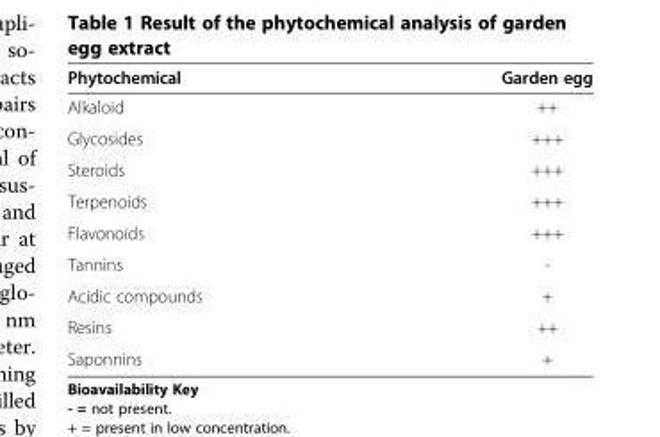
<table><thead><tr><td>Phytochemical</td><td>Garden egg</td></tr></thead><tbody><tr><td>Alkaloid</td><td>++</td></tr><tr><td>Glycosides</td><td>+++</td></tr><tr><td>Steroids</td><td>+++</td></tr><tr><td>Terpenoids</td><td>+++</td></tr><tr><td>Flavonoids</td><td>+++</td></tr><tr><td>Tannins</td><td>-</td></tr><tr><td>Acidic compounds</td><td>+</td></tr><tr><td>Resins</td><td>++</td></tr><tr><td>Saponnins</td><td>+</td></tr></tbody></table>